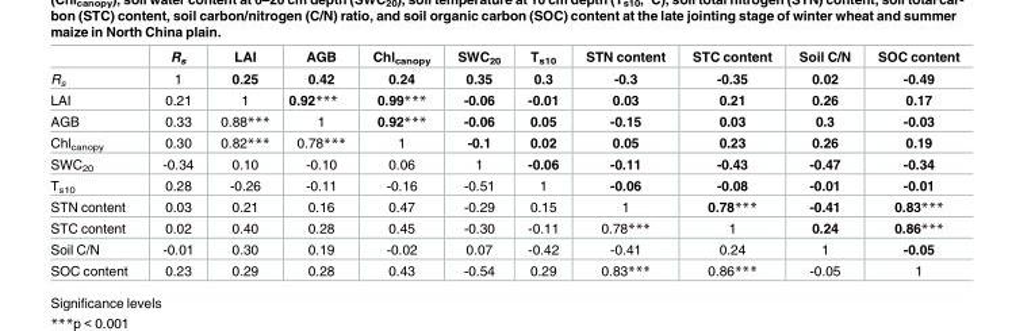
<table><thead><tr><td></td><td>R<sub>s</sub></td><td>LAI</td><td>AGB</td><td>Chl<sub>canopy</sub></td><td>SWC<sub>20</sub></td><td>T<sub>s10</sub></td><td>STN content</td><td>STC content</td><td>Soil C/N</td><td>SOC content</td></tr></thead><tbody><tr><td>R<sub>s</sub></td><td>1</td><td>0.25</td><td>0.42</td><td>0.24</td><td>0.35</td><td>0.3</td><td>-0.3</td><td>-0.35</td><td>0.02</td><td>-0.49</td></tr><tr><td>LAI</td><td>0.21</td><td>1</td><td>0.92***</td><td>0.99***</td><td>-0.06</td><td>-0.01</td><td>0.03</td><td>0.21</td><td>0.26</td><td>0.17</td></tr><tr><td>AGB</td><td>0.33</td><td>0.88***</td><td>1</td><td>0.92***</td><td>-0.06</td><td>0.05</td><td>-0.15</td><td>0.03</td><td>0.3</td><td>-0.03</td></tr><tr><td>Chl<sub>canopy</sub></td><td>0.30</td><td>0.82***</td><td>0.78***</td><td>1</td><td>-0.1</td><td>0.02</td><td>0.05</td><td>0.23</td><td>0.26</td><td>0.19</td></tr><tr><td>SWC<sub>20</sub></td><td>-0.34</td><td>0.10</td><td>-0.10</td><td>0.06</td><td>1</td><td>-0.06</td><td>-0.11</td><td>-0.43</td><td>-0.47</td><td>-0.34</td></tr><tr><td>T<sub>s10</sub></td><td>0.28</td><td>-0.26</td><td>-0.11</td><td>-0.16</td><td>-0.51</td><td>1</td><td>-0.06</td><td>-0.08</td><td>-0.01</td><td>-0.01</td></tr><tr><td>STN content</td><td>0.03</td><td>0.21</td><td>0.16</td><td>0.47</td><td>-0.29</td><td>0.15</td><td>1</td><td>0.78***</td><td>-0.41</td><td>0.83***</td></tr><tr><td>STC content</td><td>0.02</td><td>0.40</td><td>0.28</td><td>0.45</td><td>-0.30</td><td>-0.11</td><td>0.78***</td><td>1</td><td>0.24</td><td>0.86***</td></tr><tr><td>Soil C/N</td><td>-0.01</td><td>0.30</td><td>0.19</td><td>-0.02</td><td>0.07</td><td>-0.42</td><td>-0.41</td><td>0.24</td><td>1</td><td>-0.05</td></tr><tr><td>SOC content</td><td>0.23</td><td>0.29</td><td>0.28</td><td>0.43</td><td>-0.54</td><td>0.29</td><td>0.83***</td><td>0.86***</td><td>-0.05</td><td>1</td></tr></tbody></table>